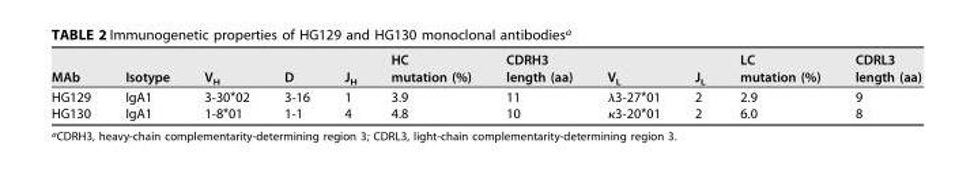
<table><thead><tr><td>MAb</td><td>Isotype</td><td>V<sub>H</sub></td><td>D</td><td>J<sub>H</sub></td><td>HC mutation (%)</td><td>CDRH3 length (aa)</td><td>V<sub>L</sub></td><td>J<sub>L</sub></td><td>LC mutation (%)</td><td>CDRL3 length (aa)</td></tr></thead><tbody><tr><td>HG129</td><td>IgA1</td><td>3-30*02</td><td>3-16</td><td>1</td><td>3.9</td><td>11</td><td>λ3-27*01</td><td>2</td><td>2.9</td><td>9</td></tr><tr><td>HG130</td><td>IgA1</td><td>1-8*01</td><td>1-1</td><td>4</td><td>4.8</td><td>10</td><td>κ3-20*01</td><td>2</td><td>6.0</td><td>8</td></tr></tbody></table>